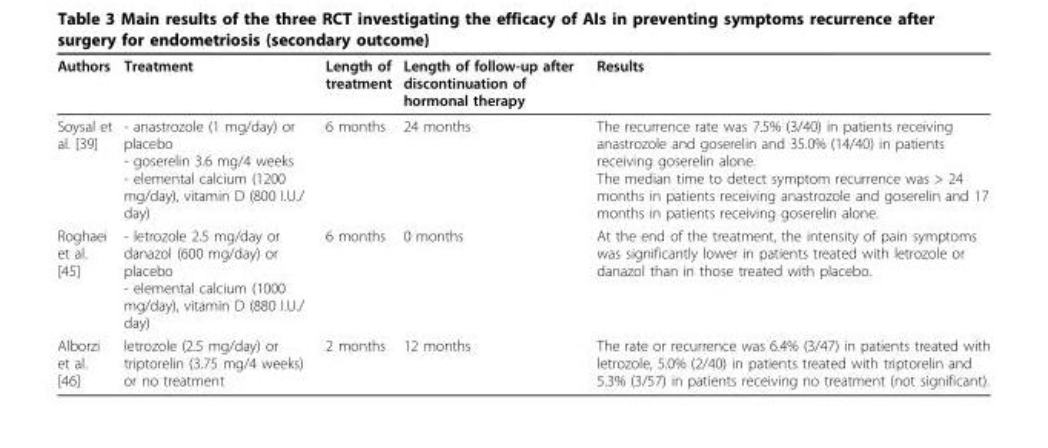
<table><thead><tr><td>Authors</td><td>Treatment</td><td>Length of treatment</td><td>Length of follow-up after discontinuation of hormonal therapy</td><td>Results</td></tr></thead><tbody><tr><td>Soysal et al. [39]</td><td>- anastrozole (1 mg/day) or placebo - goserelin 3.6 mg/4 weeks - elemental calcium (1200 mg/day), vitamin D (800 I.U./ day)</td><td>6 months</td><td>24 months</td><td>The recurrence rate was 7.5% (3/40) in patients receiving anastrozole and goserelin and 35.0% (14/40) in patients receiving goserelin alone. The median time to detect symptom recurrence was &gt; 24 months in patients receiving anastrozole and goserelin and 17 months in patients receiving goserelin alone.</td></tr><tr><td>Roghaei et al. [45]</td><td>- letrozole 2.5 mg/day or danazol (600 mg/day) or placebo - elemental calcium (1000 mg/day), vitamin D (880 I.U./ day)</td><td>6 months</td><td>0 months</td><td>At the end of the treatment, the intensity of pain symptoms was significantly lower in patients treated with letrozole or danazol than in those treated with placebo.</td></tr><tr><td>Alborzi et al. [46]</td><td>letrozole (2.5 mg/day) or triptorelin (3.75 mg/4 weeks) or no treatment</td><td>2 months</td><td>12 months</td><td>The rate or recurrence was 6.4% (3/47) in patients treated with letrozole, 5.0% (2/40) in patients treated with triptorelin and 5.3% (3/57) in patients receiving no treatment (not significant).</td></tr></tbody></table>